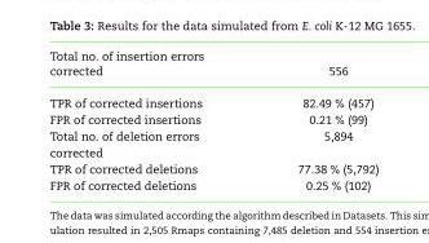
<table><thead><tr><td>Total no. of insertion errors corrected</td><td>556</td></tr></thead><tbody><tr><td>TPR of corrected insertions</td><td>82.49 % (457)</td></tr><tr><td>FPR of corrected insertions</td><td>0.21 % (99)</td></tr><tr><td>Total no. of deletion errors corrected</td><td>5,894</td></tr><tr><td>TPR of corrected deletions</td><td>77.38 % (5,792)</td></tr><tr><td>FPR of corrected deletions</td><td>0.25 % (102)</td></tr></tbody></table>